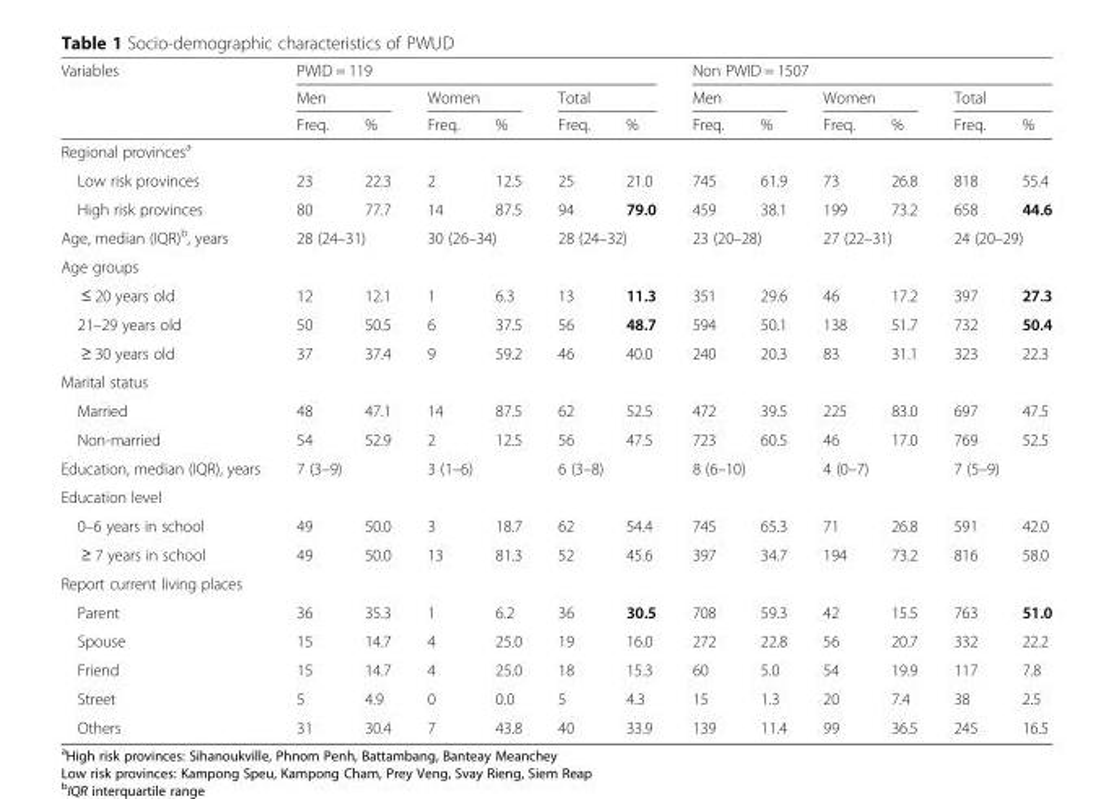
<table><thead><tr><td rowspan="3">Variables</td><td colspan="6">PWID = 119</td><td colspan="6">Non PWID = 1507</td></tr><tr><td colspan="2">Men</td><td colspan="2">Women</td><td colspan="2">Total</td><td colspan="2">Men</td><td colspan="2">Women</td><td colspan="2">Total</td></tr><tr><td>Freq.</td><td>%</td><td>Freq.</td><td>%</td><td>Freq.</td><td>%</td><td>Freq.</td><td>%</td><td>Freq.</td><td>%</td><td>Freq.</td><td>%</td></tr></thead><tbody><tr><td colspan="13">Regional provinces<sup>a</sup></td></tr><tr><td>Low risk provinces</td><td>23</td><td>22.3</td><td>2</td><td>12.5</td><td>25</td><td>21.0</td><td>745</td><td>61.9</td><td>73</td><td>26.8</td><td>818</td><td>55.4</td></tr><tr><td>High risk provinces</td><td>80</td><td>77.7</td><td>14</td><td>87.5</td><td>94</td><td>79.0</td><td>459</td><td>38.1</td><td>199</td><td>73.2</td><td>658</td><td>44.6</td></tr><tr><td>Age, median (IQR)<sup>b</sup>, years</td><td colspan="2">28 (24–31)</td><td colspan="2">30 (26–34)</td><td colspan="2">28 (24–32)</td><td colspan="2">23 (20–28)</td><td colspan="2">27 (22–31)</td><td colspan="2">24 (20–29)</td></tr><tr><td colspan="13">Age groups</td></tr><tr><td>≤ 20 years old</td><td>12</td><td>12.1</td><td>1</td><td>6.3</td><td>13</td><td>11.3</td><td>351</td><td>29.6</td><td>46</td><td>17.2</td><td>397</td><td>27.3</td></tr><tr><td>21–29 years old</td><td>50</td><td>50.5</td><td>6</td><td>37.5</td><td>56</td><td>48.7</td><td>594</td><td>50.1</td><td>138</td><td>51.7</td><td>732</td><td>50.4</td></tr><tr><td>≥ 30 years old</td><td>37</td><td>37.4</td><td>9</td><td>59.2</td><td>46</td><td>40.0</td><td>240</td><td>20.3</td><td>83</td><td>31.1</td><td>323</td><td>22.3</td></tr><tr><td colspan="13">Marital status</td></tr><tr><td>Married</td><td>48</td><td>47.1</td><td>14</td><td>87.5</td><td>62</td><td>52.5</td><td>472</td><td>39.5</td><td>225</td><td>83.0</td><td>697</td><td>47.5</td></tr><tr><td>Non-married</td><td>54</td><td>52.9</td><td>2</td><td>12.5</td><td>56</td><td>47.5</td><td>723</td><td>60.5</td><td>46</td><td>17.0</td><td>769</td><td>52.5</td></tr><tr><td>Education, median (IQR), years</td><td colspan="2">7 (3–9)</td><td colspan="2">3 (1–6)</td><td colspan="2">6 (3–8)</td><td colspan="2">8 (6–10)</td><td colspan="2">4 (0–7)</td><td colspan="2">7 (5–9)</td></tr><tr><td colspan="13">Education level</td></tr><tr><td>0–6 years in school</td><td>49</td><td>50.0</td><td>3</td><td>18.7</td><td>62</td><td>54.4</td><td>745</td><td>65.3</td><td>71</td><td>26.8</td><td>591</td><td>42.0</td></tr><tr><td>≥ 7 years in school</td><td>49</td><td>50.0</td><td>13</td><td>81.3</td><td>52</td><td>45.6</td><td>397</td><td>34.7</td><td>194</td><td>73.2</td><td>816</td><td>58.0</td></tr><tr><td colspan="13">Report current living places</td></tr><tr><td>Parent</td><td>36</td><td>35.3</td><td>1</td><td>6.2</td><td>36</td><td>30.5</td><td>708</td><td>59.3</td><td>42</td><td>15.5</td><td>763</td><td>51.0</td></tr><tr><td>Spouse</td><td>15</td><td>14.7</td><td>4</td><td>25.0</td><td>19</td><td>16.0</td><td>272</td><td>22.8</td><td>56</td><td>20.7</td><td>332</td><td>22.2</td></tr><tr><td>Friend</td><td>15</td><td>14.7</td><td>4</td><td>25.0</td><td>18</td><td>15.3</td><td>60</td><td>5.0</td><td>54</td><td>19.9</td><td>117</td><td>7.8</td></tr><tr><td>Street</td><td>5</td><td>4.9</td><td>0</td><td>0.0</td><td>5</td><td>4.3</td><td>15</td><td>1.3</td><td>20</td><td>7.4</td><td>38</td><td>2.5</td></tr><tr><td>Others</td><td>31</td><td>30.4</td><td>7</td><td>43.8</td><td>40</td><td>33.9</td><td>139</td><td>11.4</td><td>99</td><td>36.5</td><td>245</td><td>16.5</td></tr></tbody></table>